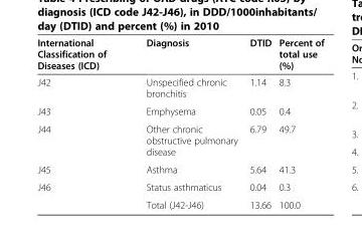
<table><thead><tr><td>International Classification of Diseases (ICD)</td><td>Diagnosis</td><td>DTID</td><td>Percent of total use (%)</td></tr></thead><tbody><tr><td>J42</td><td>Unspecified chronic bronchitis</td><td>1.14</td><td>8.3</td></tr><tr><td>J43</td><td>Emphysema</td><td>0.05</td><td>0.4</td></tr><tr><td>J44</td><td>Other chronic obstructive pulmonary disease</td><td>6.79</td><td>49.7</td></tr><tr><td>J45</td><td>Asthma</td><td>5.64</td><td>41.3</td></tr><tr><td rowspan="2">J46</td><td>Status asthmaticus</td><td>0.04</td><td>0.3</td></tr><tr><td>Total (J42-J46)</td><td>13.66</td><td>100.0</td></tr></tbody></table>